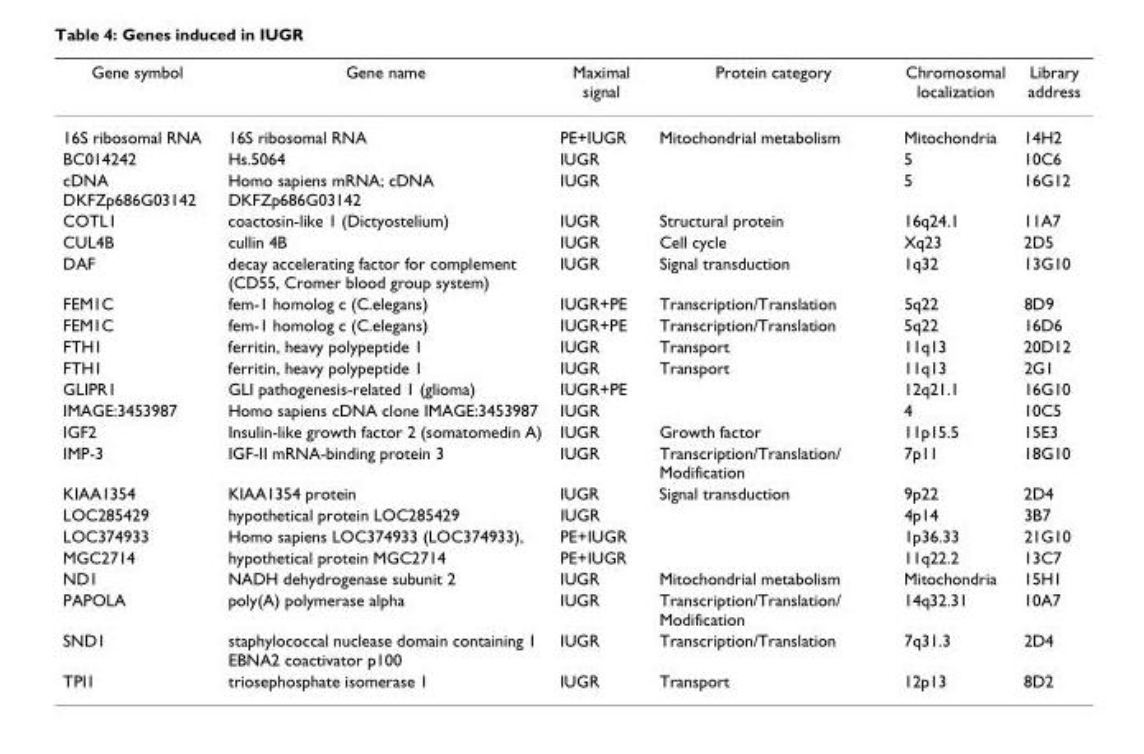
<table><thead><tr><td>Gene symbol</td><td>Gene name</td><td>Maximal signal</td><td>Protein category</td><td>Chromosomal localization</td><td>Library address</td></tr></thead><tbody><tr><td>16S ribosomal RNA</td><td>16S ribosomal RNA</td><td>PE+IUGR</td><td>Mitochondrial metabolism</td><td>Mitochondria</td><td>14H2</td></tr><tr><td>BC014242</td><td>Hs.5064</td><td>IUGR</td><td></td><td>5</td><td>10C6</td></tr><tr><td>cDNA DKFZp686G03142</td><td>Homo sapiens mRNA; cDNA DKFZp686G03142</td><td>IUGR</td><td></td><td>5</td><td>16G12</td></tr><tr><td>COTL1</td><td>coactosin-like 1 (Dictyostelium)</td><td>IUGR</td><td>Structural protein</td><td>16q24.1</td><td>11A7</td></tr><tr><td>CUL4B</td><td>cullin 4B</td><td>IUGR</td><td>Cell cycle</td><td>Xq23</td><td>2D5</td></tr><tr><td>DAF</td><td>decay accelerating factor for complement (CD55, Cromer blood group system)</td><td>IUGR</td><td>Signal transduction</td><td>1q32</td><td>13G10</td></tr><tr><td>FEM1C</td><td>fem-1 homolog c (C.elegans)</td><td>IUGR+PE</td><td>Transcription/Translation</td><td>5q22</td><td>8D9</td></tr><tr><td>FEM1C</td><td>fem-1 homolog c (C.elegans)</td><td>IUGR+PE</td><td>Transcription/Translation</td><td>5q22</td><td>16D6</td></tr><tr><td>FTH1</td><td>ferritin, heavy polypeptide 1</td><td>IUGR</td><td>Transport</td><td>11q13</td><td>20D12</td></tr><tr><td>FTH1</td><td>ferritin, heavy polypeptide 1</td><td>IUGR</td><td>Transport</td><td>11q13</td><td>2G1</td></tr><tr><td>GLIPR1</td><td>GLI pathogenesis-related 1 (glioma)</td><td>IUGR+PE</td><td></td><td>12q21.1</td><td>16G10</td></tr><tr><td>IMAGE:3453987</td><td>Homo sapiens cDNA clone IMAGE:3453987</td><td>IUGR</td><td></td><td>4</td><td>10C5</td></tr><tr><td>IGF2</td><td>Insulin-like growth factor 2 (somatomedin A)</td><td>IUGR</td><td>Growth factor</td><td>11p15.5</td><td>15E3</td></tr><tr><td>IMP-3</td><td>IGF-II mRNA-binding protein 3</td><td>IUGR</td><td>Transcription/Translation/ Modification</td><td>7p11</td><td>18G10</td></tr><tr><td>KIAA1354</td><td>KIAA1354 protein</td><td>IUGR</td><td>Signal transduction</td><td>9p22</td><td>2D4</td></tr><tr><td>LOC285429</td><td>hypothetical protein LOC285429</td><td>IUGR</td><td></td><td>4p14</td><td>3B7</td></tr><tr><td>LOC374933</td><td>Homo sapiens LOC374933 (LOC374933),</td><td>PE+IUGR</td><td></td><td>1p36.33</td><td>21G10</td></tr><tr><td>MGC2714</td><td>hypothetical protein MGC2714</td><td>PE+IUGR</td><td></td><td>11q22.2</td><td>13C7</td></tr><tr><td>ND1</td><td>NADH dehydrogenase subunit 2</td><td>IUGR</td><td>Mitochondrial metabolism</td><td>Mitochondria</td><td>15H1</td></tr><tr><td>PAPOLA</td><td>poly(A) polymerase alpha</td><td>IUGR</td><td>Transcription/Translation/ Modification</td><td>14q32.31</td><td>10A7</td></tr><tr><td>SND1</td><td>staphylococcal nuclease domain containing 1 EBNA2 coactivator p100</td><td>IUGR</td><td>Transcription/Translation</td><td>7q31.3</td><td>2D4</td></tr><tr><td>TPI1</td><td>triosephosphate isomerase 1</td><td>IUGR</td><td>Transport</td><td>12p13</td><td>8D2</td></tr></tbody></table>